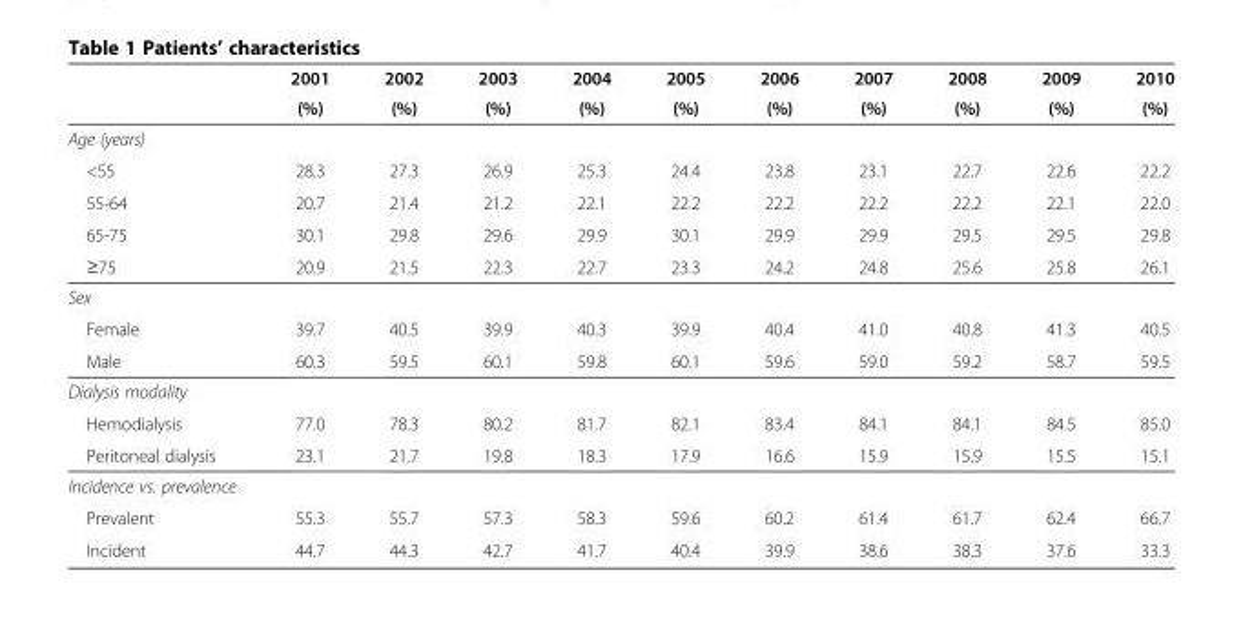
<table><thead><tr><td rowspan="2"></td><td rowspan="2">2001 (%)</td><td rowspan="2">2002 (%)</td><td rowspan="2">2003 (%)</td><td rowspan="2">2004 (%)</td><td rowspan="2">2005 (%)</td><td rowspan="2">2006 (%)</td><td rowspan="2">2007 (%)</td><td rowspan="2">2008 (%)</td><td rowspan="2">2009 (%)</td><td rowspan="2">2010 (%)</td></tr><tr></tr></thead><tbody><tr><td colspan="11">Age (years)</td></tr><tr><td>&lt;55</td><td>28.3</td><td>27.3</td><td>26.9</td><td>25.3</td><td>24.4</td><td>23.8</td><td>23.1</td><td>22.7</td><td>22.6</td><td>22.2</td></tr><tr><td>55-64</td><td>20.7</td><td>21.4</td><td>21.2</td><td>22.1</td><td>22.2</td><td>22.2</td><td>22.2</td><td>22.2</td><td>22.1</td><td>22.0</td></tr><tr><td>65-75</td><td>30.1</td><td>29.8</td><td>29.6</td><td>29.9</td><td>30.1</td><td>29.9</td><td>29.9</td><td>29.5</td><td>29.5</td><td>29.8</td></tr><tr><td>≥75</td><td>20.9</td><td>21.5</td><td>22.3</td><td>22.7</td><td>23.3</td><td>24.2</td><td>24.8</td><td>25.6</td><td>25.8</td><td>26.1</td></tr><tr><td colspan="11">Sex</td></tr><tr><td>Female</td><td>39.7</td><td>40.5</td><td>39.9</td><td>40.3</td><td>39.9</td><td>40.4</td><td>41.0</td><td>40.8</td><td>41.3</td><td>40.5</td></tr><tr><td>Male</td><td>60.3</td><td>59.5</td><td>60.1</td><td>59.8</td><td>60.1</td><td>59.6</td><td>59.0</td><td>59.2</td><td>58.7</td><td>59.5</td></tr><tr><td colspan="11">Dialysis modality</td></tr><tr><td>Hemodialysis</td><td>77.0</td><td>78.3</td><td>80.2</td><td>81.7</td><td>82.1</td><td>83.4</td><td>84.1</td><td>84.1</td><td>84.5</td><td>85.0</td></tr><tr><td>Peritoneal dialysis</td><td>23.1</td><td>21.7</td><td>19.8</td><td>18.3</td><td>17.9</td><td>16.6</td><td>15.9</td><td>15.9</td><td>15.5</td><td>15.1</td></tr><tr><td colspan="11">Incidence vs. prevalence</td></tr><tr><td>Prevalent</td><td>55.3</td><td>55.7</td><td>57.3</td><td>58.3</td><td>59.6</td><td>60.2</td><td>61.4</td><td>61.7</td><td>62.4</td><td>66.7</td></tr><tr><td>Incident</td><td>44.7</td><td>44.3</td><td>42.7</td><td>41.7</td><td>40.4</td><td>39.9</td><td>38.6</td><td>38.3</td><td>37.6</td><td>33.3</td></tr></tbody></table>